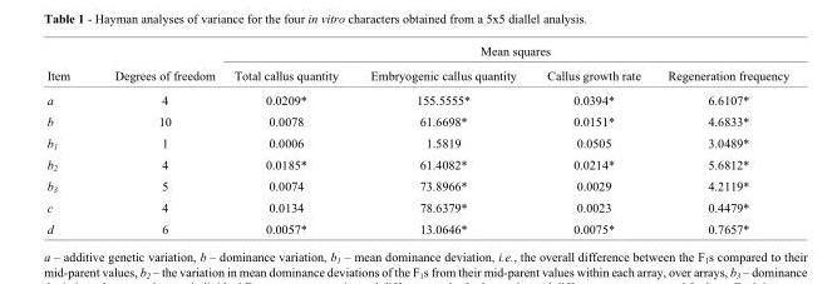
<table><thead><tr><td rowspan="2">Item</td><td rowspan="2">Degrees of freedom</td><td colspan="4">Mean squares</td></tr><tr><td>Total callus quantity</td><td>Embryogenic callus quantity</td><td>Callus growth rate</td><td>Regeneration frequency</td></tr></thead><tbody><tr><td>a</td><td>4</td><td>0.0209*</td><td>155.5555*</td><td>0.0394*</td><td>6.6107*</td></tr><tr><td>b</td><td>10</td><td>0.0078</td><td>61.6698*</td><td>0.0151*</td><td>4.6833*</td></tr><tr><td>b1</td><td>1</td><td>0.0006</td><td>1.5819</td><td>0.0505</td><td>3.0489*</td></tr><tr><td>b<sub>2</sub></td><td>4</td><td>0.0185*</td><td>61.4082*</td><td>0.0214*</td><td>5.6812*</td></tr><tr><td>b<sub>3</sub></td><td>5</td><td>0.0074</td><td>73.8966*</td><td>0.0029</td><td>4.2119*</td></tr><tr><td>c</td><td>4</td><td>0.0134</td><td>78.6379*</td><td>0.0023</td><td>0.4479*</td></tr><tr><td>d</td><td>6</td><td>0.0057*</td><td>13.0646*</td><td>0.0075*</td><td>0.7657*</td></tr></tbody></table>